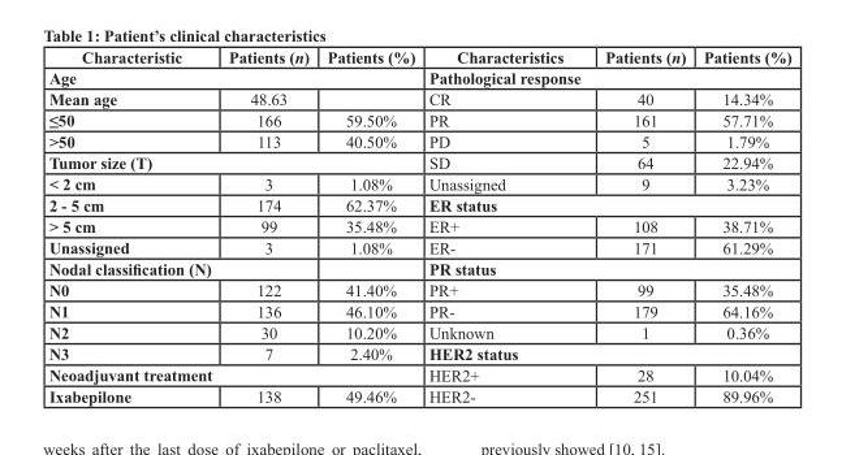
<table><thead><tr><td>Characteristic</td><td>Patients (n)</td><td>Patients (%)</td><td>Characteristics</td><td>Patients (n)</td><td>Patients (%)</td></tr><tr><td colspan="3">Age</td><td colspan="3">Pathological response</td></tr></thead><tbody><tr><td>Mean age</td><td>48.63</td><td></td><td>CR</td><td>40</td><td>14.34%</td></tr><tr><td>≤50</td><td>166</td><td>59.50%</td><td>PR</td><td>161</td><td>57.71%</td></tr><tr><td>&gt;50</td><td>113</td><td>40.50%</td><td>PD</td><td>5</td><td>1.79%</td></tr><tr><td colspan="3">Tumor size (T)</td><td>SD</td><td>64</td><td>22.94%</td></tr><tr><td>&lt; 2 cm</td><td>3</td><td>1.08%</td><td>Unassigned</td><td>9</td><td>3.23%</td></tr><tr><td>2 - 5 cm</td><td>174</td><td>62.37%</td><td colspan="3">ER status</td></tr><tr><td>&gt; 5 cm</td><td>99</td><td>35.48%</td><td>ER+</td><td>108</td><td>38.71%</td></tr><tr><td>Unassigned</td><td>3</td><td>1.08%</td><td>ER-</td><td>171</td><td>61.29%</td></tr><tr><td colspan="2">Nodal classification (N)</td><td></td><td colspan="3">PR status</td></tr><tr><td>N0</td><td>122</td><td>41.40%</td><td>PR+</td><td>99</td><td>35.48%</td></tr><tr><td>N1</td><td>136</td><td>46.10%</td><td>PR-</td><td>179</td><td>64.16%</td></tr><tr><td>N2</td><td>30</td><td>10.20%</td><td>Unknown</td><td>1</td><td>0.36%</td></tr><tr><td>N3</td><td>7</td><td>2.40%</td><td colspan="3">HER2 status</td></tr><tr><td colspan="3">Neoadjuvant treatment</td><td>HER2+</td><td>28</td><td>10.04%</td></tr><tr><td>Ixabepilone</td><td>138</td><td>49.46%</td><td>HER2-</td><td>251</td><td>89.96%</td></tr></tbody></table>